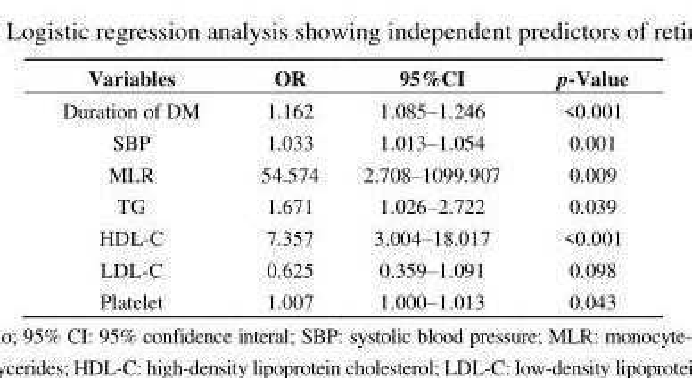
<table><thead><tr><td>Variables</td><td>OR</td><td>95%CI</td><td>p-Value</td></tr></thead><tbody><tr><td>Duration of DM</td><td>1.162</td><td>1.085–1.246</td><td>&lt;0.001</td></tr><tr><td>SBP</td><td>1.033</td><td>1.013–1.054</td><td>0.001</td></tr><tr><td>MLR</td><td>54.574</td><td>2.708–1099.907</td><td>0.009</td></tr><tr><td>TG</td><td>1.671</td><td>1.026–2.722</td><td>0.039</td></tr><tr><td>HDL-C</td><td>7.357</td><td>3.004–18.017</td><td>&lt;0.001</td></tr><tr><td>LDL-C</td><td>0.625</td><td>0.359–1.091</td><td>0.098</td></tr><tr><td>Platelet</td><td>1.007</td><td>1.000–1.013</td><td>0.043</td></tr></tbody></table>